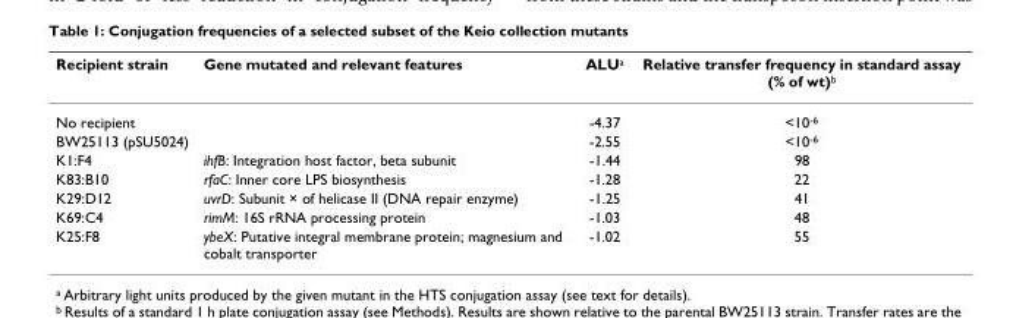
<table><thead><tr><td>Recipient strain</td><td>Gene mutated and relevant features</td><td>ALU<sup>a</sup></td><td>Relative transfer frequency in standard assay (% of wt)<sup>b</sup></td></tr></thead><tbody><tr><td>No recipient</td><td></td><td>-4.37</td><td>&lt;10<sup>-6</sup></td></tr><tr><td>BW25113 (pSU5024)</td><td></td><td>-2.55</td><td>&lt;10<sup>-6</sup></td></tr><tr><td>K1:F4</td><td>ihfB: Integration host factor, beta subunit</td><td>-1.44</td><td>98</td></tr><tr><td>K83:B10</td><td>rfaC: Inner core LPS biosynthesis</td><td>-1.28</td><td>22</td></tr><tr><td>K29:D12</td><td>uvrD: Subunit × of helicase II (DNA repair enzyme)</td><td>-1.25</td><td>41</td></tr><tr><td>K69:C4</td><td>rimM: 16S rRNA processing protein</td><td>-1.03</td><td>48</td></tr><tr><td>K25:F8</td><td>ybeX: Putative integral membrane protein; magnesium and cobalt transporter</td><td>-1.02</td><td>55</td></tr></tbody></table>